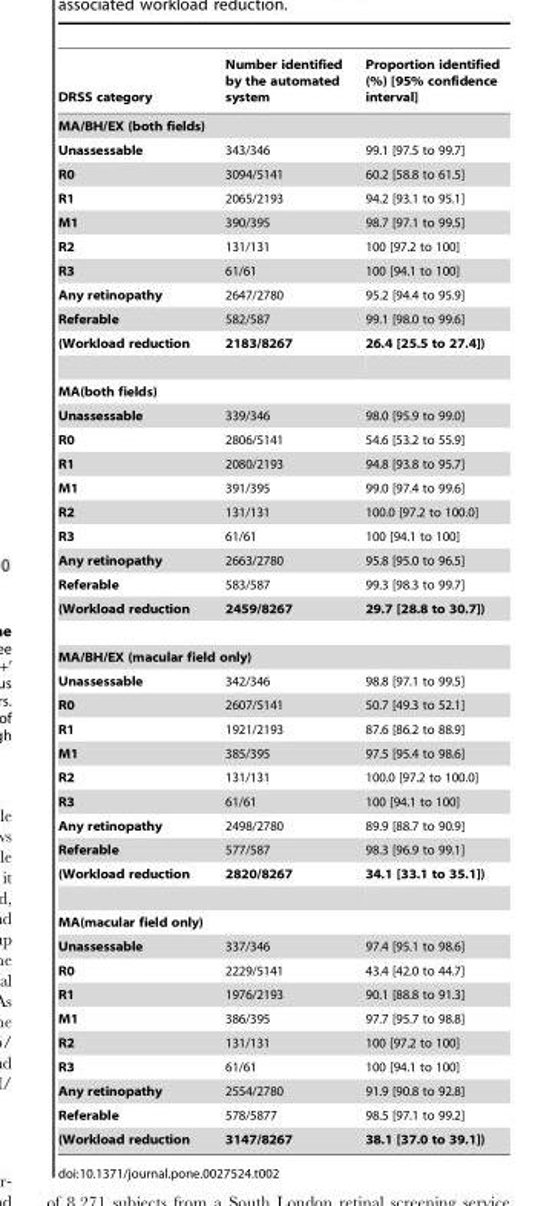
<table><thead><tr><td>DRSS category</td><td>Number identified by the automated system</td><td>Proportion identified (%) [95% confidence interval]</td></tr></thead><tbody><tr><td colspan="3">MA/BH/EX (both fields)</td></tr><tr><td>Unassessable</td><td>343/346</td><td>99.1 [97.5 to 99.7]</td></tr><tr><td>R0</td><td>3094/5141</td><td>60.2 [58.8 to 61.5]</td></tr><tr><td>R1</td><td>2065/2193</td><td>94.2 [93.1 to 95.1]</td></tr><tr><td>M1</td><td>390/395</td><td>98.7 [97.1 to 99.5]</td></tr><tr><td>R2</td><td>131/131</td><td>100 [97.2 to 100]</td></tr><tr><td>R3</td><td>61/61</td><td>100 [94.1 to 100]</td></tr><tr><td>Any retinopathy</td><td>2647/2780</td><td>95.2 [94.4 to 95.9]</td></tr><tr><td>Referable</td><td>582/587</td><td>99.1 [98.0 to 99.6]</td></tr><tr><td>(Workload reduction</td><td>2183/8267</td><td>26.4 [25.5 to 27.4])</td></tr><tr><td colspan="3">MA(both fields)</td></tr><tr><td>Unassessable</td><td>339/346</td><td>98.0 [95.9 to 99.0]</td></tr><tr><td>R0</td><td>2806/5141</td><td>54.6 [53.2 to 55.9]</td></tr><tr><td>R1</td><td>2080/2193</td><td>94.8 [93.8 to 95.7]</td></tr><tr><td>M1</td><td>391/395</td><td>99.0 [97.4 to 99.6]</td></tr><tr><td>R2</td><td>131/131</td><td>100.0 [97.2 to 100.0]</td></tr><tr><td>R3</td><td>61/61</td><td>100 [94.1 to 100]</td></tr><tr><td>Any retinopathy</td><td>2663/2780</td><td>95.8 [95.0 to 96.5]</td></tr><tr><td>Referable</td><td>583/587</td><td>99.3 [98.3 to 99.7]</td></tr><tr><td>(Workload reduction</td><td>2459/8267</td><td>29.7 [28.8 to 30.7])</td></tr><tr><td colspan="3">MA/BH/EX (macular field only)</td></tr><tr><td>Unassessable</td><td>342/346</td><td>98.8 [97.1 to 99.5]</td></tr><tr><td>R0</td><td>2607/5141</td><td>50.7 [49.3 to 52.1]</td></tr><tr><td>R1</td><td>1921/2193</td><td>87.6 [86.2 to 88.9]</td></tr><tr><td>M1</td><td>385/395</td><td>97.5 [95.4 to 98.6]</td></tr><tr><td>R2</td><td>131/131</td><td>100.0 [97.2 to 100.0]</td></tr><tr><td>R3</td><td>61/61</td><td>100 [94.1 to 100]</td></tr><tr><td>Any retinopathy</td><td>2498/2780</td><td>89.9 [88.7 to 90.9]</td></tr><tr><td>Referable</td><td>577/587</td><td>98.3 [96.9 to 99.1]</td></tr><tr><td>(Workload reduction</td><td>2820/8267</td><td>34.1 [33.1 to 35.1])</td></tr><tr><td colspan="3">MA(macular field only)</td></tr><tr><td>Unassessable</td><td>337/346</td><td>97.4 [95.1 to 98.6]</td></tr><tr><td>R0</td><td>2229/5141</td><td>43.4 [42.0 to 44.7]</td></tr><tr><td>R1</td><td>1976/2193</td><td>90.1 [88.8 to 91.3]</td></tr><tr><td>M1</td><td>386/395</td><td>97.7 [95.7 to 98.8]</td></tr><tr><td>R2</td><td>131/131</td><td>100 [97.2 to 100]</td></tr><tr><td>R3</td><td>61/61</td><td>100 [94.1 to 100]</td></tr><tr><td>Any retinopathy</td><td>2554/2780</td><td>91.9 [90.8 to 92.8]</td></tr><tr><td>Referable</td><td>578/5877</td><td>98.5 [97.1 to 99.2]</td></tr><tr><td>(Workload reduction</td><td>3147/8267</td><td>38.1 [37.0 to 39.1])</td></tr></tbody></table>